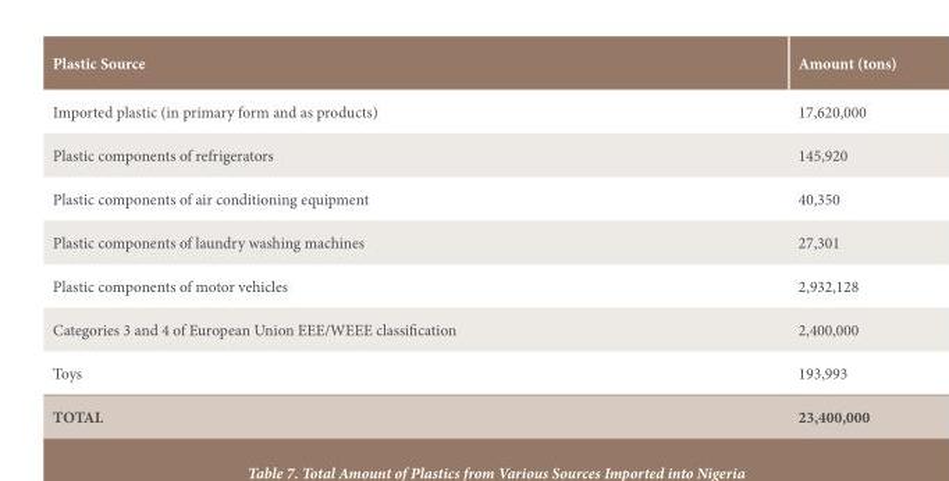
<table><thead><tr><td>Plastic Source</td><td>Amount (tons)</td></tr></thead><tbody><tr><td>Imported plastic (in primary form and as products)</td><td>17,620,000</td></tr><tr><td>Plastic components of refrigerators</td><td>145,920</td></tr><tr><td>Plastic components of air conditioning equipment</td><td>40,350</td></tr><tr><td>Plastic components of laundry washing machines</td><td>27,301</td></tr><tr><td>Plastic components of motor vehicles</td><td>2,932,128</td></tr><tr><td>Categories 3 and 4 of European Union EEE/WEEE classification</td><td>2,400,000</td></tr><tr><td>Toys</td><td>193,993</td></tr><tr><td>TOTAL</td><td>23,400,000</td></tr></tbody></table>